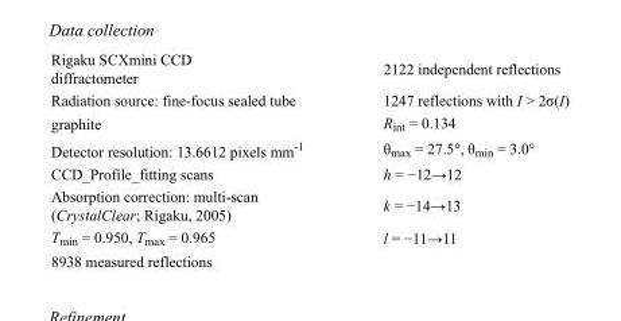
<table><tbody><tr><td>Rigaku SCXmini CCD diffractometer</td><td>2122 independent reflections</td></tr><tr><td>Radiation source: fine-focus sealed tube</td><td>1247 reflections with I &gt; 2σ(I)</td></tr><tr><td>graphite</td><td>R<sub>int</sub> = 0.134</td></tr><tr><td>Detector resolution: 13.6612 pixels mm<sup>-1</sup></td><td>θ<sub>max</sub> = 27.5°, θ<sub>min</sub> = 3.0°</td></tr><tr><td>CCD_Profile_fitting scans</td><td>h = −12→12</td></tr><tr><td>Absorption correction: multi-scan (CrystalClear; Rigaku, 2005)</td><td>k = −14→13</td></tr><tr><td>T<sub>min</sub> = 0.950, T<sub>max</sub> = 0.965</td><td>l = −11→11</td></tr><tr><td>8938 measured reflections</td><td></td></tr></tbody></table>